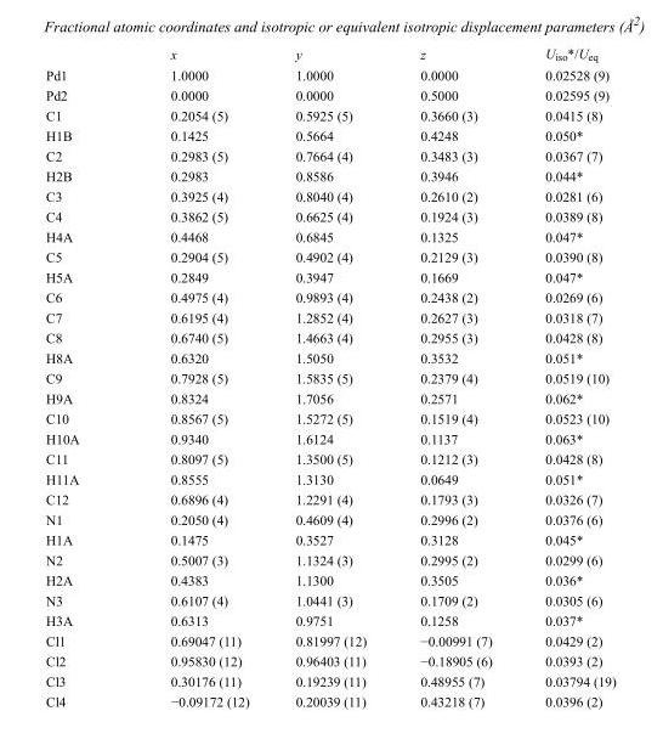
<table><thead><tr><td></td><td>x</td><td>y</td><td>z</td><td>U<sub>iso</sub>*/U<sub>eq</sub></td></tr></thead><tbody><tr><td>Pd1</td><td>1.0000</td><td>1.0000</td><td>0.0000</td><td>0.02528 (9)</td></tr><tr><td>Pd2</td><td>0.0000</td><td>0.0000</td><td>0.5000</td><td>0.02595 (9)</td></tr><tr><td>C1</td><td>0.2054 (5)</td><td>0.5925 (5)</td><td>0.3660 (3)</td><td>0.0415 (8)</td></tr><tr><td>H1B</td><td>0.1425</td><td>0.5664</td><td>0.4248</td><td>0.050*</td></tr><tr><td>C2</td><td>0.2983 (5)</td><td>0.7664 (4)</td><td>0.3483 (3)</td><td>0.0367 (7)</td></tr><tr><td>H2B</td><td>0.2983</td><td>0.8586</td><td>0.3946</td><td>0.044*</td></tr><tr><td>C3</td><td>0.3925 (4)</td><td>0.8040 (4)</td><td>0.2610 (2)</td><td>0.0281 (6)</td></tr><tr><td>C4</td><td>0.3862 (5)</td><td>0.6625 (4)</td><td>0.1924 (3)</td><td>0.0389 (8)</td></tr><tr><td>H4A</td><td>0.4468</td><td>0.6845</td><td>0.1325</td><td>0.047*</td></tr><tr><td>C5</td><td>0.2904 (5)</td><td>0.4902 (4)</td><td>0.2129 (3)</td><td>0.0390 (8)</td></tr><tr><td>H5A</td><td>0.2849</td><td>0.3947</td><td>0.1669</td><td>0.047*</td></tr><tr><td>C6</td><td>0.4975 (4)</td><td>0.9893 (4)</td><td>0.2438 (2)</td><td>0.0269 (6)</td></tr><tr><td>C7</td><td>0.6195 (4)</td><td>1.2852 (4)</td><td>0.2627 (3)</td><td>0.0318 (7)</td></tr><tr><td>C8</td><td>0.6740 (5)</td><td>1.4663 (4)</td><td>0.2955 (3)</td><td>0.0428 (8)</td></tr><tr><td>H8A</td><td>0.6320</td><td>1.5050</td><td>0.3532</td><td>0.051*</td></tr><tr><td>C9</td><td>0.7928 (5)</td><td>1.5835 (5)</td><td>0.2379 (4)</td><td>0.0519 (10)</td></tr><tr><td>H9A</td><td>0.8324</td><td>1.7056</td><td>0.2571</td><td>0.062*</td></tr><tr><td>C10</td><td>0.8567 (5)</td><td>1.5272 (5)</td><td>0.1519 (4)</td><td>0.0523 (10)</td></tr><tr><td>H10A</td><td>0.9340</td><td>1.6124</td><td>0.1137</td><td>0.063*</td></tr><tr><td>C11</td><td>0.8097 (5)</td><td>1.3500 (5)</td><td>0.1212 (3)</td><td>0.0428 (8)</td></tr><tr><td>H11A</td><td>0.8555</td><td>1.3130</td><td>0.0649</td><td>0.051*</td></tr><tr><td>C12</td><td>0.6896 (4)</td><td>1.2291 (4)</td><td>0.1793 (3)</td><td>0.0326 (7)</td></tr><tr><td>N1</td><td>0.2050 (4)</td><td>0.4609 (4)</td><td>0.2996 (2)</td><td>0.0376 (6)</td></tr><tr><td>H1A</td><td>0.1475</td><td>0.3527</td><td>0.3128</td><td>0.045*</td></tr><tr><td>N2</td><td>0.5007 (3)</td><td>1.1324 (3)</td><td>0.2995 (2)</td><td>0.0299 (6)</td></tr><tr><td>H2A</td><td>0.4383</td><td>1.1300</td><td>0.3505</td><td>0.036*</td></tr><tr><td>N3</td><td>0.6107 (4)</td><td>1.0441 (3)</td><td>0.1709 (2)</td><td>0.0305 (6)</td></tr><tr><td>H3A</td><td>0.6313</td><td>0.9751</td><td>0.1258</td><td>0.037*</td></tr><tr><td>Cl1</td><td>0.69047 (11)</td><td>0.81997 (12)</td><td>−0.00991 (7)</td><td>0.0429 (2)</td></tr><tr><td>Cl2</td><td>0.95830 (12)</td><td>0.96403 (11)</td><td>−0.18905 (6)</td><td>0.0393 (2)</td></tr><tr><td>Cl3</td><td>0.30176 (11)</td><td>0.19239 (11)</td><td>0.48955 (7)</td><td>0.03794 (19)</td></tr><tr><td>Cl4</td><td>−0.09172 (12)</td><td>0.20039 (11)</td><td>0.43218 (7)</td><td>0.0396 (2)</td></tr></tbody></table>